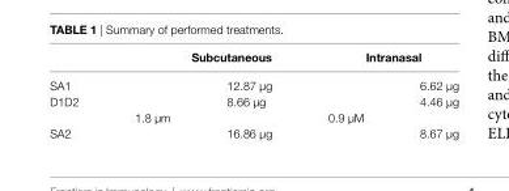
<table><thead><tr><td rowspan="2">SA1</td><td colspan="2">subcutaneous</td><td colspan="2">intranasal</td></tr><tr><td></td><td>12.87 µg</td><td></td><td>6.62 µg</td></tr></thead><tbody><tr><td rowspan="2">D1D2</td><td></td><td>8.66 µg</td><td></td><td>4.46 µg</td></tr><tr><td>1.8 µm</td><td></td><td>0.9 µM</td><td></td></tr><tr><td>SA2</td><td></td><td>16.86 µg</td><td></td><td>8.67 µg</td></tr></tbody></table>